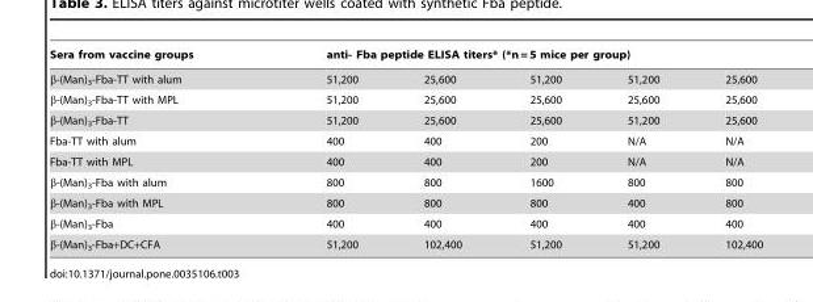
<table><thead><tr><td rowspan="2">Sera from vaccine groups β-(Man)<sub>3</sub>-Fba-TT with alum</td><td colspan="5">anti- Fba peptide ELISA titers* (*n = 5 mice per group)</td></tr><tr><td>51,200</td><td>25,600</td><td>51,200</td><td>51,200</td><td>25,600</td></tr></thead><tbody><tr><td>β-(Man)<sub>3</sub>-Fba-TT with MPL</td><td>51,200</td><td>25,600</td><td>25,600</td><td>25,600</td><td>25,600</td></tr><tr><td>β-(Man)<sub>3</sub>-Fba-TT</td><td>51,200</td><td>25,600</td><td>25,600</td><td>51,200</td><td>25,600</td></tr><tr><td>Fba-TT with alum</td><td>400</td><td>400</td><td>200</td><td>N/A</td><td>N/A</td></tr><tr><td>Fba-TT with MPL</td><td>400</td><td>400</td><td>200</td><td>N/A</td><td>N/A</td></tr><tr><td>β-(Man)<sub>3</sub>-Fba with alum</td><td>800</td><td>800</td><td>1600</td><td>800</td><td>800</td></tr><tr><td>β-(Man)<sub>3</sub>-Fba with MPL</td><td>800</td><td>800</td><td>800</td><td>400</td><td>800</td></tr><tr><td>β-(Man)<sub>3</sub>-Fba</td><td>400</td><td>400</td><td>400</td><td>400</td><td>400</td></tr><tr><td>β-(Man)<sub>3</sub>-Fba+DC+CFA</td><td>51,200</td><td>102,400</td><td>51,200</td><td>51,200</td><td>102,400</td></tr></tbody></table>